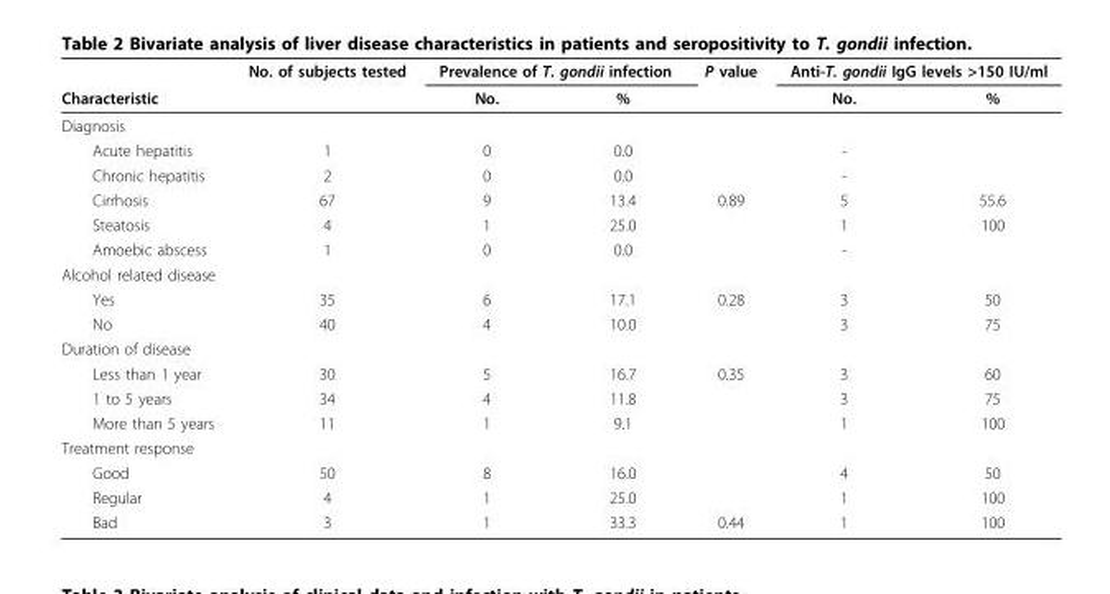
<table><thead><tr><td rowspan="2">Characteristic</td><td rowspan="2">No. of subjects tested</td><td colspan="2">Prevalence of T. gondii infection</td><td rowspan="2">P value</td><td colspan="2">Anti-T. gondii IgG levels &gt;150 IU/ml</td></tr><tr><td>No.</td><td>%</td><td>No.</td><td>%</td></tr></thead><tbody><tr><td colspan="7">Diagnosis</td></tr><tr><td>Acute hepatitis</td><td>1</td><td>0</td><td>0.0</td><td></td><td>-</td><td></td></tr><tr><td>Chronic hepatitis</td><td>2</td><td>0</td><td>0.0</td><td></td><td>-</td><td></td></tr><tr><td>Cirrhosis</td><td>67</td><td>9</td><td>13.4</td><td>0.89</td><td>5</td><td>55.6</td></tr><tr><td>Steatosis</td><td>4</td><td>1</td><td>25.0</td><td></td><td>1</td><td>100</td></tr><tr><td>Amoebic abscess</td><td>1</td><td>0</td><td>0.0</td><td></td><td>-</td><td></td></tr><tr><td colspan="7">Alcohol related disease</td></tr><tr><td>Yes</td><td>35</td><td>6</td><td>17.1</td><td>0.28</td><td>3</td><td>50</td></tr><tr><td>No</td><td>40</td><td>4</td><td>10.0</td><td></td><td>3</td><td>75</td></tr><tr><td colspan="7">Duration of disease</td></tr><tr><td>Less than 1 year</td><td>30</td><td>5</td><td>16.7</td><td>0.35</td><td>3</td><td>60</td></tr><tr><td>1 to 5 years</td><td>34</td><td>4</td><td>11.8</td><td></td><td>3</td><td>75</td></tr><tr><td>More than 5 years</td><td>11</td><td>1</td><td>9.1</td><td></td><td>1</td><td>100</td></tr><tr><td colspan="7">Treatment response</td></tr><tr><td>Good</td><td>50</td><td>8</td><td>16.0</td><td></td><td>4</td><td>50</td></tr><tr><td>Regular</td><td>4</td><td>1</td><td>25.0</td><td></td><td>1</td><td>100</td></tr><tr><td>Bad</td><td>3</td><td>1</td><td>33.3</td><td>0.44</td><td>1</td><td>100</td></tr></tbody></table>